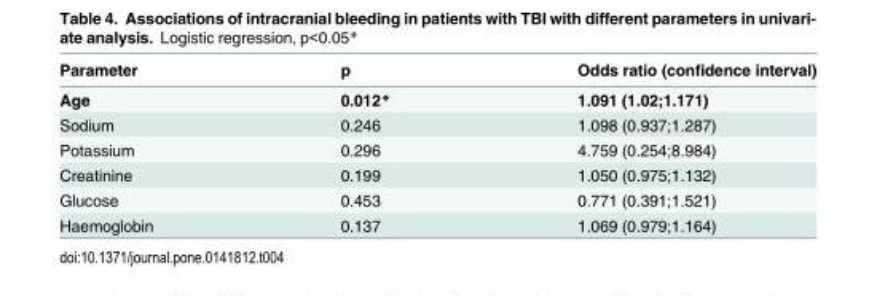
<table><thead><tr><td>Parameter</td><td>p</td><td>Odds ratio (confidence interval)</td></tr></thead><tbody><tr><td>Age</td><td>0.012*</td><td>1.091 (1.02;1.171)</td></tr><tr><td>Sodium</td><td>0.246</td><td>1.098 (0.937;1.287)</td></tr><tr><td>Potassium</td><td>0.296</td><td>4.759 (0.254;8.984)</td></tr><tr><td>Creatinine</td><td>0.199</td><td>1.050 (0.975;1.132)</td></tr><tr><td>Glucose</td><td>0.453</td><td>0.771 (0.391;1.521)</td></tr><tr><td>Haemoglobin</td><td>0.137</td><td>1.069 (0.979;1.164)</td></tr></tbody></table>